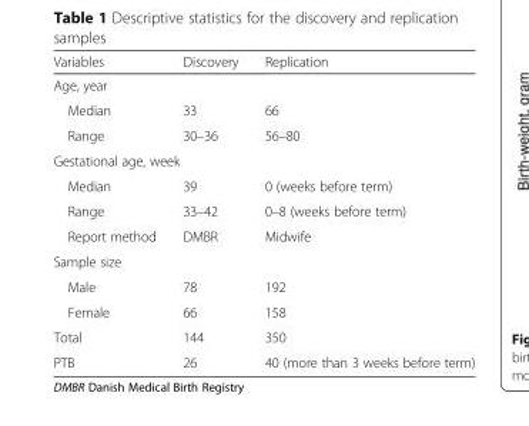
<table><thead><tr><td>Variables</td><td>Discovery</td><td>Replication</td></tr></thead><tbody><tr><td colspan="3">Age, year</td></tr><tr><td>Median</td><td>33</td><td>66</td></tr><tr><td>Range</td><td>30–36</td><td>56–80</td></tr><tr><td colspan="3">Gestational age, week</td></tr><tr><td>Median</td><td>39</td><td>0 (weeks before term)</td></tr><tr><td>Range</td><td>33–42</td><td>0–8 (weeks before term)</td></tr><tr><td>Report method</td><td>DMBR</td><td>Midwife</td></tr><tr><td colspan="3">Sample size</td></tr><tr><td>Male</td><td>78</td><td>192</td></tr><tr><td>Female</td><td>66</td><td>158</td></tr><tr><td>Total</td><td>144</td><td>350</td></tr><tr><td>PTB</td><td>26</td><td>40 (more than 3 weeks before term)</td></tr></tbody></table>